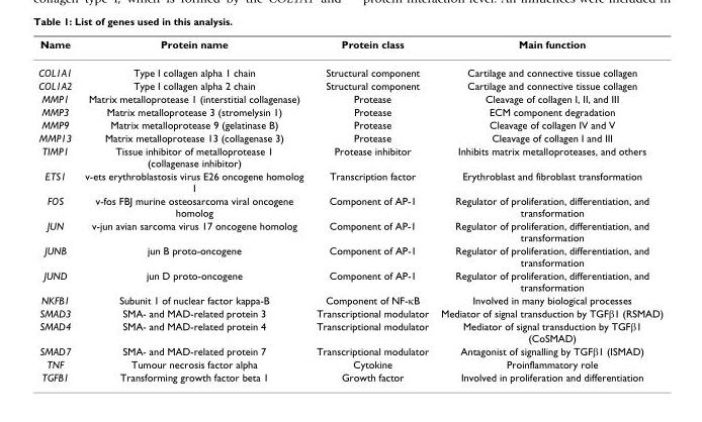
<table><thead><tr><td>Name</td><td>Protein name</td><td>Protein class</td><td>Main function</td></tr></thead><tbody><tr><td>COL1A1</td><td>Type I collagen alpha 1 chain</td><td>Structural component</td><td>Cartilage and connective tissue collagen</td></tr><tr><td>COL1A2</td><td>Type I collagen alpha 2 chain</td><td>Structural component</td><td>Cartilage and connective tissue collagen</td></tr><tr><td>MMP1</td><td>Matrix metalloprotease 1 (interstitial collagenase)</td><td>Protease</td><td>Cleavage of collagen I, II, and III</td></tr><tr><td>MMP3</td><td>Matrix metalloprotease 3 (stromelysin 1)</td><td>Protease</td><td>ECM component degradation</td></tr><tr><td>MMP9</td><td>Matrix metalloprotease 9 (gelatinase B)</td><td>Protease</td><td>Cleavage of collagen IV and V</td></tr><tr><td>MMP13</td><td>Matrix metalloprotease 13 (collagenase 3)</td><td>Protease</td><td>Cleavage of collagen I and III</td></tr><tr><td>TIMP1</td><td>Tissue inhibitor of metalloprotease 1 (collagenase inhibitor)</td><td>Protease inhibitor</td><td>Inhibits matrix metalloproteases, and others</td></tr><tr><td>ETS1</td><td>v-ets erythroblastosis virus E26 oncogene homolog 1</td><td>Transcription factor</td><td>Erythroblast and fibroblast transformation</td></tr><tr><td>FOS</td><td>v-fos FBJ murine osteosarcoma viral oncogene homolog</td><td>Component of AP-1</td><td>Regulator of proliferation, differentiation, and transformation</td></tr><tr><td>JUN</td><td>v-jun avian sarcoma virus 17 oncogene homolog</td><td>Component of AP-1</td><td>Regulator of proliferation, differentiation, and transformation</td></tr><tr><td>JUNB</td><td>jun B proto-oncogene</td><td>Component of AP-1</td><td>Regulator of proliferation, differentiation, and transformation</td></tr><tr><td>JUND</td><td>jun D proto-oncogene</td><td>Component of AP-1</td><td>Regulator of proliferation, differentiation, and transformation</td></tr><tr><td>NKFB1</td><td>Subunit 1 of nuclear factor kappa-B</td><td>Component of NF-κB</td><td>Involved in many biological processes</td></tr><tr><td>SMAD3</td><td>SMA- and MAD-related protein 3</td><td>Transcriptional modulator</td><td>Mediator of signal transduction by TGFβ1 (RSMAD)</td></tr><tr><td>SMAD4</td><td>SMA- and MAD-related protein 4</td><td>Transcriptional modulator</td><td>Mediator of signal transduction by TGFβ1 (CoSMAD)</td></tr><tr><td>SMAD7</td><td>SMA- and MAD-related protein 7</td><td>Transcriptional modulator</td><td>Antagonist of signalling by TGFβ1 (ISMAD)</td></tr><tr><td>TNF</td><td>Tumour necrosis factor alpha</td><td>Cytokine</td><td>Proinflammatory role</td></tr><tr><td>TGFB1</td><td>Transforming growth factor beta 1</td><td>Growth factor</td><td>Involved in proliferation and differentiation</td></tr></tbody></table>